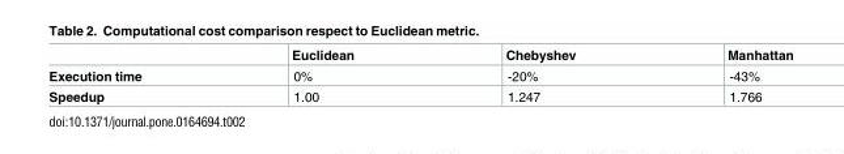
<table><thead><tr><td></td><td>Euclidean</td><td>Chebyshev</td><td>Manhattan</td></tr></thead><tbody><tr><td>Execution time</td><td>0%</td><td>-20%</td><td>-43%</td></tr><tr><td>Speedup</td><td>1.00</td><td>1.247</td><td>1.766</td></tr></tbody></table>